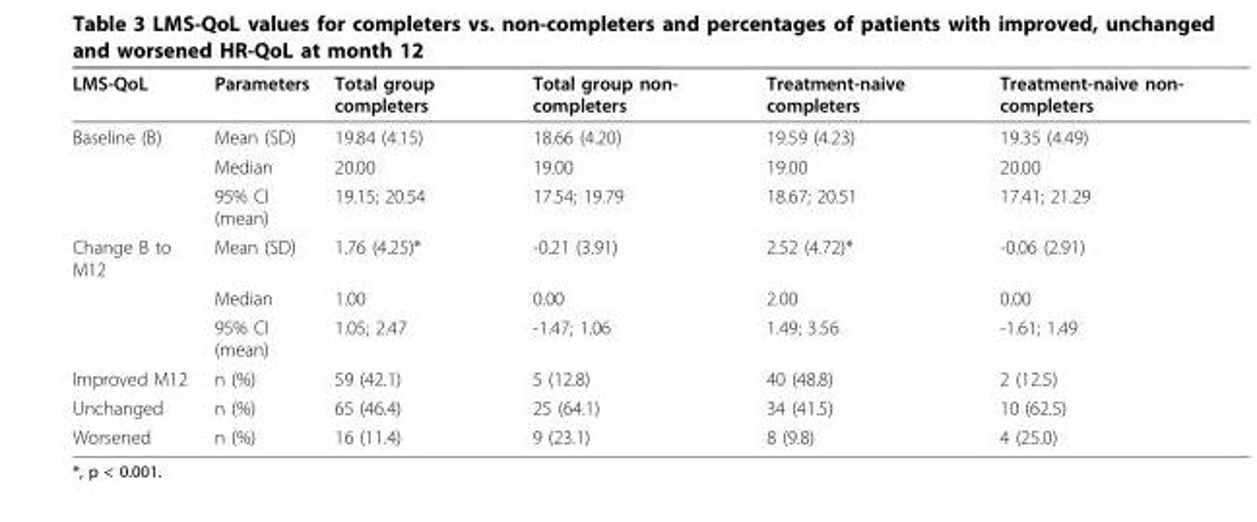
<table><thead><tr><td>LMS-QoL</td><td>Parameters</td><td>Total group completers</td><td>Total group non- completers</td><td>Treatment-naive completers</td><td>Treatment-naive non- completers</td></tr></thead><tbody><tr><td rowspan="3">Baseline (B)</td><td>Mean (SD)</td><td>19.84 (4.15)</td><td>18.66 (4.20)</td><td>19.59 (4.23)</td><td>19.35 (4.49)</td></tr><tr><td>Median</td><td>20.00</td><td>19.00</td><td>19.00</td><td>20.00</td></tr><tr><td>95% CI (mean)</td><td>19.15; 20.54</td><td>17.54; 19.79</td><td>18.67; 20.51</td><td>17.41; 21.29</td></tr><tr><td rowspan="3">Change B to M12</td><td>Mean (SD)</td><td>1.76 (4.25)*</td><td>-0.21 (3.91)</td><td>2.52 (4.72)*</td><td>-0.06 (2.91)</td></tr><tr><td>Median</td><td>1.00</td><td>0.00</td><td>2.00</td><td>0.00</td></tr><tr><td>95% CI (mean)</td><td>1.05; 2.47</td><td>-1.47; 1.06</td><td>1.49; 3.56</td><td>-1.61; 1.49</td></tr><tr><td>Improved M12</td><td>n (%)</td><td>59 (42.1)</td><td>5 (12.8)</td><td>40 (48.8)</td><td>2 (12.5)</td></tr><tr><td>Unchanged</td><td>n (%)</td><td>65 (46.4)</td><td>25 (64.1)</td><td>34 (41.5)</td><td>10 (62.5)</td></tr><tr><td>Worsened</td><td>n (%)</td><td>16 (11.4)</td><td>9 (23.1)</td><td>8 (9.8)</td><td>4 (25.0)</td></tr></tbody></table>